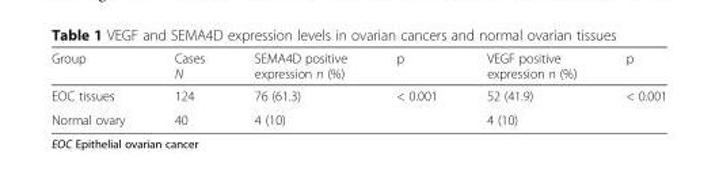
<table><thead><tr><td>Group</td><td>Cases N</td><td>SEMA4D positive expression n (%)</td><td>p</td><td>VEGF positive expression n (%)</td><td>p</td></tr></thead><tbody><tr><td>EOC tissues</td><td>124</td><td>76 (61.3)</td><td rowspan="2">&lt; 0.001</td><td>52 (41.9)</td><td rowspan="2">&lt; 0.001</td></tr><tr><td>Normal ovary</td><td>40</td><td>4 (10)</td><td>4 (10)</td></tr></tbody></table>